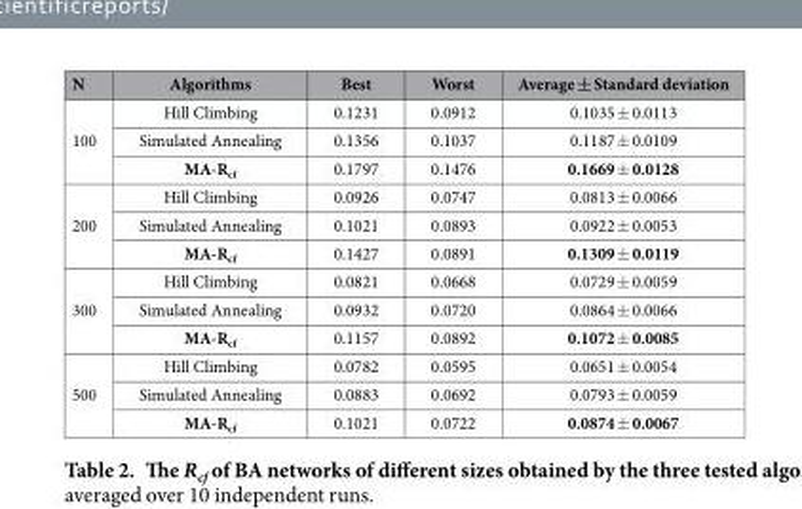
<table><thead><tr><td>N</td><td>Algorithms</td><td>Best</td><td>Worst</td><td>Average ± Standard deviation</td></tr></thead><tbody><tr><td rowspan="3">100</td><td>Hill Climbing</td><td>0.1231</td><td>0.0912</td><td>0.1035 ± 0.0113</td></tr><tr><td>Simulated Annealing</td><td>0.1356</td><td>0.1037</td><td>0.1187 ± 0.0109</td></tr><tr><td>MA-R<sub>cf</sub></td><td>0.1797</td><td>0.1476</td><td>0.1669 ± 0.0128</td></tr><tr><td rowspan="3">200</td><td>Hill Climbing</td><td>0.0926</td><td>0.0747</td><td>0.0813 ± 0.0066</td></tr><tr><td>Simulated Annealing</td><td>0.1021</td><td>0.0893</td><td>0.0922 ± 0.0053</td></tr><tr><td>MA-R<sub>cf</sub></td><td>0.1427</td><td>0.0891</td><td>0.1309 ± 0.0119</td></tr><tr><td rowspan="3">300</td><td>Hill Climbing</td><td>0.0821</td><td>0.0668</td><td>0.0729 ± 0.0059</td></tr><tr><td>Simulated Annealing</td><td>0.0932</td><td>0.0720</td><td>0.0864 ± 0.0066</td></tr><tr><td>MA-R<sub>cf</sub></td><td>0.1157</td><td>0.0892</td><td>0.1072 ± 0.0085</td></tr><tr><td rowspan="3">500</td><td>Hill Climbing</td><td>0.0782</td><td>0.0595</td><td>0.0651 ± 0.0054</td></tr><tr><td>Simulated Annealing</td><td>0.0883</td><td>0.0692</td><td>0.0793 ± 0.0059</td></tr><tr><td>MA-R<sub>cf</sub></td><td>0.1021</td><td>0.0722</td><td>0.0874 ± 0.0067</td></tr></tbody></table>